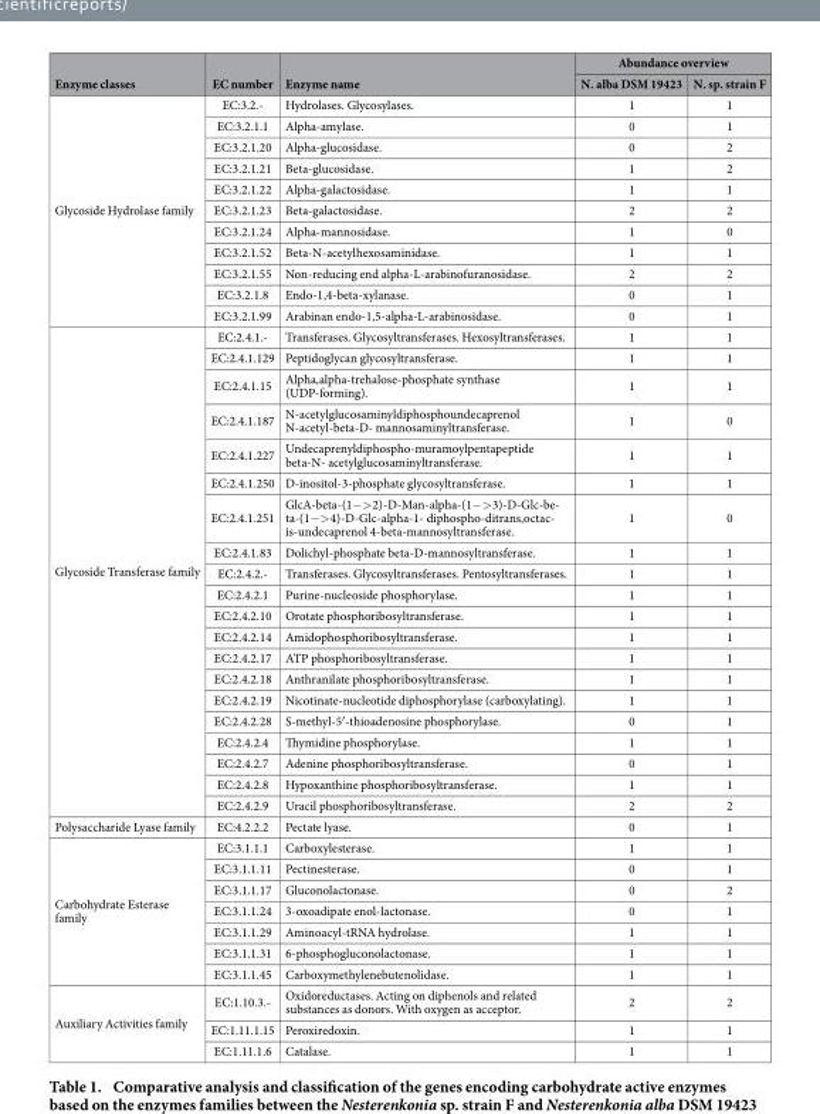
<table><thead><tr><td rowspan="2">Enzyme classes</td><td rowspan="2">EC number</td><td rowspan="2">Enzyme name</td><td colspan="2">Abundance overview</td></tr><tr><td>N. alba DSM 19423</td><td>N. sp. strain F</td></tr></thead><tbody><tr><td rowspan="11">Glycoside Hydrolase family</td><td>EC:3.2.-</td><td>Hydrolases. Glycosylases.</td><td>1</td><td>1</td></tr><tr><td>EC:3.2.1.1</td><td>Alpha-amylase.</td><td>0</td><td>1</td></tr><tr><td>EC:3.2.1.20</td><td>Alpha-glucosidase.</td><td>0</td><td>2</td></tr><tr><td>EC:3.2.1.21</td><td>Beta-glucosidase.</td><td>1</td><td>2</td></tr><tr><td>EC:3.2.1.22</td><td>Alpha-galactosidase.</td><td>1</td><td>1</td></tr><tr><td>EC:3.2.1.23</td><td>Beta-galactosidase.</td><td>2</td><td>2</td></tr><tr><td>EC:3.2.1.24</td><td>Alpha-mannosidase.</td><td>1</td><td>0</td></tr><tr><td>EC:3.2.1.52</td><td>Beta-N-acetylhexosaminidase.</td><td>1</td><td>1</td></tr><tr><td>EC:3.2.1.55</td><td>Non-reducing end alpha-L-arabinofuranosidase.</td><td>2</td><td>2</td></tr><tr><td>EC:3.2.1.8</td><td>Endo-1,4-beta-xylanase.</td><td>0</td><td>1</td></tr><tr><td>EC:3.2.1.99</td><td>Arabinan endo-1,5-alpha-L-arabinosidase.</td><td>0</td><td>1</td></tr><tr><td rowspan="20">Glycoside Transferase family</td><td>EC:2.4.1.-</td><td>Transferases. Glycosyltransferases. Hexosyltransferases.</td><td>1</td><td>1</td></tr><tr><td>EC:2.4.1.129</td><td>Peptidoglycan glycosyltransferase.</td><td>1</td><td>1</td></tr><tr><td>EC:2.4.1.15</td><td>Alpha,alpha-trehalose-phosphate synthase (UDP-forming).</td><td>1</td><td>1</td></tr><tr><td>EC:2.4.1.187</td><td>N-acetylglucosaminyldiphosphoundecaprenol N-acetyl-beta-D- mannosaminyltransferase.</td><td>1</td><td>0</td></tr><tr><td>EC:2.4.1.227</td><td>Undecaprenyldiphospho-muramoylpentapeptide beta-N- acetylglucosaminyltransferase.</td><td>1</td><td>1</td></tr><tr><td>EC:2.4.1.250</td><td>D-inositol-3-phosphate glycosyltransferase.</td><td>1</td><td>1</td></tr><tr><td>EC:2.4.1.251</td><td>GlcA-beta-(1−&gt; 2)-D-Man-alpha-(1−&gt; 3)-D-Glc-be- ta-(1−&gt; 4)-D-Glc-alpha-1- diphospho-ditrans,octac- is-undecaprenol 4-beta-mannosyltransferase.</td><td>1</td><td>0</td></tr><tr><td>EC:2.4.1.83</td><td>Dolichyl-phosphate beta-D-mannosyltransferase.</td><td>1</td><td>1</td></tr><tr><td>EC:2.4.2.-</td><td>Transferases. Glycosyltransferases. Pentosyltransferases.</td><td>1</td><td>1</td></tr><tr><td>EC:2.4.2.1</td><td>Purine-nucleoside phosphorylase.</td><td>1</td><td>1</td></tr><tr><td>EC:2.4.2.10</td><td>Orotate phosphoribosyltransferase.</td><td>1</td><td>1</td></tr><tr><td>EC:2.4.2.14</td><td>Amidophosphoribosyltransferase.</td><td>1</td><td>1</td></tr><tr><td>EC:2.4.2.17</td><td>ATP phosphoribosyltransferase.</td><td>1</td><td>1</td></tr><tr><td>EC:2.4.2.18</td><td>Anthranilate phosphoribosyltransferase.</td><td>1</td><td>1</td></tr><tr><td>EC:2.4.2.19</td><td>Nicotinate-nucleotide diphosphorylase (carboxylating).</td><td>1</td><td>1</td></tr><tr><td>EC:2.4.2.28</td><td>S-methyl-5′-thioadenosine phosphorylase.</td><td>0</td><td>1</td></tr><tr><td>EC:2.4.2.4</td><td>Thymidine phosphorylase.</td><td>1</td><td>1</td></tr><tr><td>EC:2.4.2.7</td><td>Adenine phosphoribosyltransferase.</td><td>0</td><td>1</td></tr><tr><td>EC:2.4.2.8</td><td>Hypoxanthine phosphoribosyltransferase.</td><td>1</td><td>1</td></tr><tr><td>EC:2.4.2.9</td><td>Uracil phosphoribosyltransferase.</td><td>2</td><td>2</td></tr><tr><td>Polysaccharide Lyase family</td><td>EC:4.2.2.2</td><td>Pectate lyase.</td><td>0</td><td>1</td></tr><tr><td rowspan="7">Carbohydrate Esterase family</td><td>EC:3.1.1.1</td><td>Carboxylesterase.</td><td>1</td><td>1</td></tr><tr><td>EC:3.1.1.11</td><td>Pectinesterase.</td><td>0</td><td>1</td></tr><tr><td>EC:3.1.1.17</td><td>Gluconolactonase.</td><td>0</td><td>2</td></tr><tr><td>EC:3.1.1.24</td><td>3-oxoadipate enol-lactonase.</td><td>0</td><td>1</td></tr><tr><td>EC:3.1.1.29</td><td>Aminoacyl-tRNA hydrolase.</td><td>1</td><td>1</td></tr><tr><td>EC:3.1.1.31</td><td>6-phosphogluconolactonase.</td><td>1</td><td>1</td></tr><tr><td>EC:3.1.1.45</td><td>Carboxymethylenebutenolidase.</td><td>1</td><td>1</td></tr><tr><td rowspan="3">Auxiliary Activities family</td><td>EC:1.10.3.-</td><td>Oxidoreductases. Acting on diphenols and related substances as donors. With oxygen as acceptor.</td><td>2</td><td>2</td></tr><tr><td>EC:1.11.1.15</td><td>Peroxiredoxin.</td><td>1</td><td>1</td></tr><tr><td>EC:1.11.1.6</td><td>Catalase.</td><td>1</td><td>1</td></tr></tbody></table>